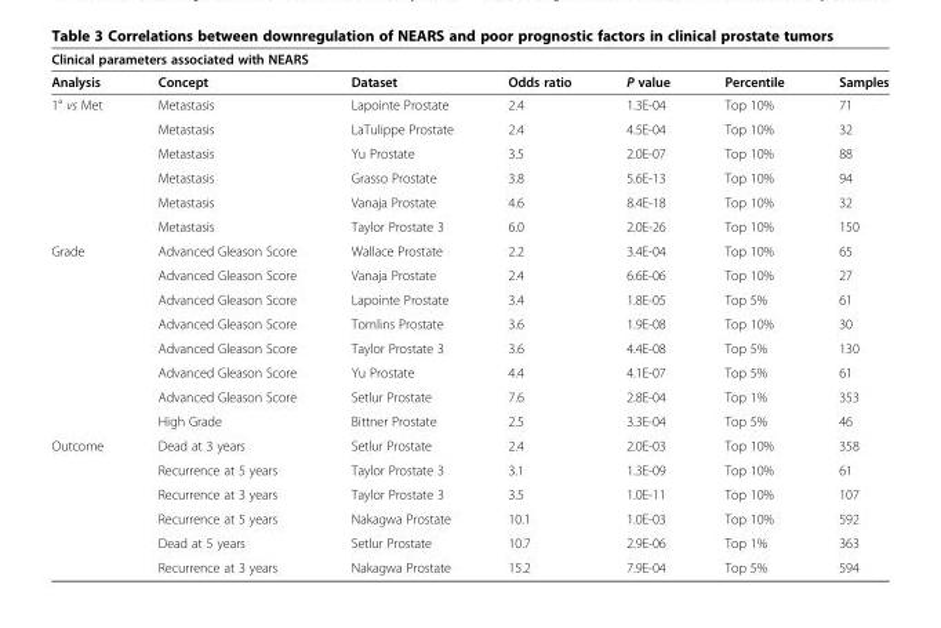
<table><thead><tr><td colspan="7">Clinical parameters associated with NEARS</td></tr><tr><td>Analysis</td><td>Concept</td><td>Dataset</td><td>Odds ratio</td><td>P value</td><td>Percentile</td><td>Samples</td></tr></thead><tbody><tr><td rowspan="6">1° vs Met</td><td>Metastasis</td><td>Lapointe Prostate</td><td>2.4</td><td>1.3E-04</td><td>Top 10%</td><td>71</td></tr><tr><td>Metastasis</td><td>LaTulippe Prostate</td><td>2.4</td><td>4.5E-04</td><td>Top 10%</td><td>32</td></tr><tr><td>Metastasis</td><td>Yu Prostate</td><td>3.5</td><td>2.0E-07</td><td>Top 10%</td><td>88</td></tr><tr><td>Metastasis</td><td>Grasso Prostate</td><td>3.8</td><td>5.6E-13</td><td>Top 10%</td><td>94</td></tr><tr><td>Metastasis</td><td>Vanaja Prostate</td><td>4.6</td><td>8.4E-18</td><td>Top 10%</td><td>32</td></tr><tr><td>Metastasis</td><td>Taylor Prostate 3</td><td>6.0</td><td>2.0E-26</td><td>Top 10%</td><td>150</td></tr><tr><td rowspan="8">Grade</td><td>Advanced Gleason Score</td><td>Wallace Prostate</td><td>2.2</td><td>3.4E-04</td><td>Top 10%</td><td>65</td></tr><tr><td>Advanced Gleason Score</td><td>Vanaja Prostate</td><td>2.4</td><td>6.6E-06</td><td>Top 10%</td><td>27</td></tr><tr><td>Advanced Gleason Score</td><td>Lapointe Prostate</td><td>3.4</td><td>1.8E-05</td><td>Top 5%</td><td>61</td></tr><tr><td>Advanced Gleason Score</td><td>Tomlins Prostate</td><td>3.6</td><td>1.9E-08</td><td>Top 10%</td><td>30</td></tr><tr><td>Advanced Gleason Score</td><td>Taylor Prostate 3</td><td>3.6</td><td>4.4E-08</td><td>Top 5%</td><td>130</td></tr><tr><td>Advanced Gleason Score</td><td>Yu Prostate</td><td>4.4</td><td>4.1E-07</td><td>Top 5%</td><td>61</td></tr><tr><td>Advanced Gleason Score</td><td>Setlur Prostate</td><td>7.6</td><td>2.8E-04</td><td>Top 1%</td><td>353</td></tr><tr><td>High Grade</td><td>Bittner Prostate</td><td>2.5</td><td>3.3E-04</td><td>Top 5%</td><td>46</td></tr><tr><td rowspan="6">Outcome</td><td>Dead at 3 years</td><td>Setlur Prostate</td><td>2.4</td><td>2.0E-03</td><td>Top 10%</td><td>358</td></tr><tr><td>Recurrence at 5 years</td><td>Taylor Prostate 3</td><td>3.1</td><td>1.3E-09</td><td>Top 10%</td><td>61</td></tr><tr><td>Recurrence at 3 years</td><td>Taylor Prostate 3</td><td>3.5</td><td>1.0E-11</td><td>Top 10%</td><td>107</td></tr><tr><td>Recurrence at 5 years</td><td>Nakagwa Prostate</td><td>10.1</td><td>1.0E-03</td><td>Top 10%</td><td>592</td></tr><tr><td>Dead at 5 years</td><td>Setlur Prostate</td><td>10.7</td><td>2.9E-06</td><td>Top 1%</td><td>363</td></tr><tr><td>Recurrence at 3 years</td><td>Nakagwa Prostate</td><td>15.2</td><td>7.9E-04</td><td>Top 5%</td><td>594</td></tr></tbody></table>